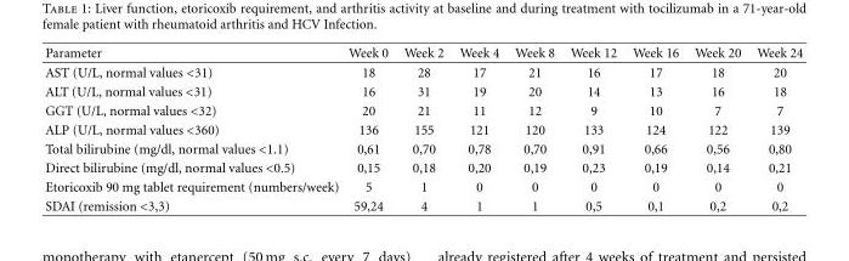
<table><thead><tr><td>Parameter</td><td>Week 0</td><td>Week 2</td><td>Week 4</td><td>Week 8</td><td>Week 12</td><td>Week 16</td><td>Week 20</td><td>Week 24</td></tr></thead><tbody><tr><td>AST (U/L, normal values &lt;31)</td><td>18</td><td>28</td><td>17</td><td>21</td><td>16</td><td>17</td><td>18</td><td>20</td></tr><tr><td>ALT (U/L, normal values &lt;31)</td><td>16</td><td>31</td><td>19</td><td>20</td><td>14</td><td>13</td><td>16</td><td>18</td></tr><tr><td>GGT (U/L, normal values &lt;32)</td><td>20</td><td>21</td><td>11</td><td>12</td><td>9</td><td>10</td><td>7</td><td>7</td></tr><tr><td>ALP (U/L, normal values &lt;360)</td><td>136</td><td>155</td><td>121</td><td>120</td><td>133</td><td>124</td><td>122</td><td>139</td></tr><tr><td>Total bilirubine (mg/dl, normal values &lt;1.1)</td><td>0,61</td><td>0,70</td><td>0,78</td><td>0,70</td><td>0,91</td><td>0,66</td><td>0,56</td><td>0,80</td></tr><tr><td>Direct bilirubine (mg/dl, normal values &lt;0.5)</td><td>0,15</td><td>0,18</td><td>0,20</td><td>0,19</td><td>0,23</td><td>0,19</td><td>0,14</td><td>0,21</td></tr><tr><td>Etoricoxib 90 mg tablet requirement (numbers/week)</td><td>5</td><td>1</td><td>0</td><td>0</td><td>0</td><td>0</td><td>0</td><td>0</td></tr><tr><td>SDAI (remission &lt;3,3)</td><td>59,24</td><td>4</td><td>1</td><td>1</td><td>0,5</td><td>0,1</td><td>0,2</td><td>0,2</td></tr></tbody></table>